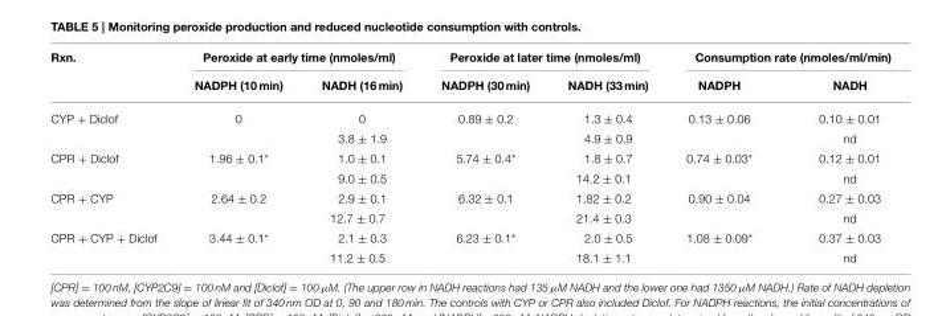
<table><thead><tr><td rowspan="2">Rxn.</td><td colspan="2">Peroxide at early time (nmoles/ml)</td><td colspan="2">Peroxide at later time (nmoles/ml)</td><td colspan="2">Consumption rate (nmoles/ml/min)</td></tr><tr><td>NADPH (10 min)</td><td>NADH (16 min)</td><td>NADPH (30 min)</td><td>NADH (33 min)</td><td>NADPH</td><td>NADH</td></tr></thead><tbody><tr><td rowspan="2">CYP + Diclof</td><td>0</td><td>0</td><td>0.89 ± 0.2</td><td>1.3 ± 0.4</td><td>0.13 ± 0.06</td><td>0.10 ± 0.01</td></tr><tr><td></td><td>3.8 ± 1.9</td><td></td><td>4.9 ± 0.9</td><td></td><td>nd</td></tr><tr><td rowspan="2">CPR + Diclof</td><td>1.96 ± 0.1*</td><td>1.0 ± 0.1</td><td>5.74 ± 0.4*</td><td>1.8 ± 0.7</td><td>0.74 ± 0.03*</td><td>0.12 ± 0.01</td></tr><tr><td></td><td>9.0 ± 0.5</td><td></td><td>14.2 ± 0.1</td><td></td><td>nd</td></tr><tr><td rowspan="2">CPR + CYP</td><td>2.64 ± 0.2</td><td>2.9 ± 0.1</td><td>6.32 ± 0.1</td><td>1.82 ± 0.2</td><td>0.90 ± 0.04</td><td>0.27 ± 0.03</td></tr><tr><td></td><td>12.7 ± 0.7</td><td></td><td>21.4 ± 0.3</td><td></td><td>nd</td></tr><tr><td rowspan="2">CPR + CYP + Diclof</td><td>3.44 ± 0.1*</td><td>2.1 ± 0.3</td><td>6.23 ± 0.1*</td><td>2.0 ± 0.5</td><td>1.08 ± 0.09*</td><td>0.37 ± 0.03</td></tr><tr><td></td><td>11.2 ± 0.5</td><td></td><td>18.1 ± 1.1</td><td></td><td>nd</td></tr></tbody></table>